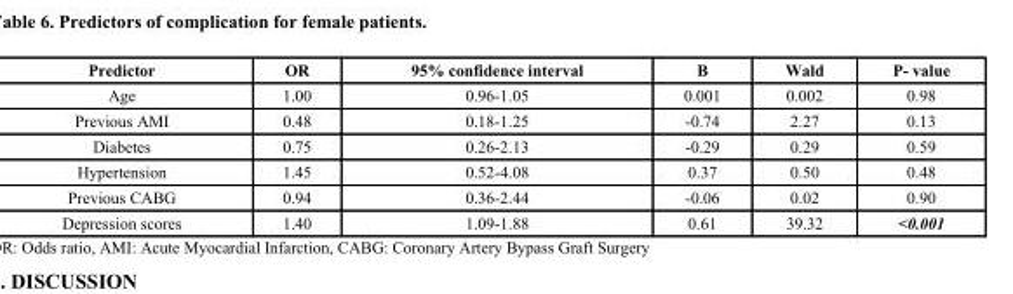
<table><thead><tr><td>Predictor</td><td>OR</td><td>95% confidence interval</td><td>B</td><td>Wald</td><td>P- value</td></tr></thead><tbody><tr><td>Age</td><td>1.00</td><td>0.96-1.05</td><td>0.001</td><td>0.002</td><td>0.98</td></tr><tr><td>Previous AMI</td><td>0.48</td><td>0.18-1.25</td><td>-0.74</td><td>2.27</td><td>0.13</td></tr><tr><td>Diabetes</td><td>0.75</td><td>0.26-2.13</td><td>-0.29</td><td>0.29</td><td>0.59</td></tr><tr><td>Hypertension</td><td>1.45</td><td>0.52-4.08</td><td>0.37</td><td>0.50</td><td>0.48</td></tr><tr><td>Previous CABG</td><td>0.94</td><td>0.36-2.44</td><td>-0.06</td><td>0.02</td><td>0.90</td></tr><tr><td>Depression scores</td><td>1.40</td><td>1.09-1.88</td><td>0.61</td><td>39.32</td><td>&lt;0.001</td></tr></tbody></table>